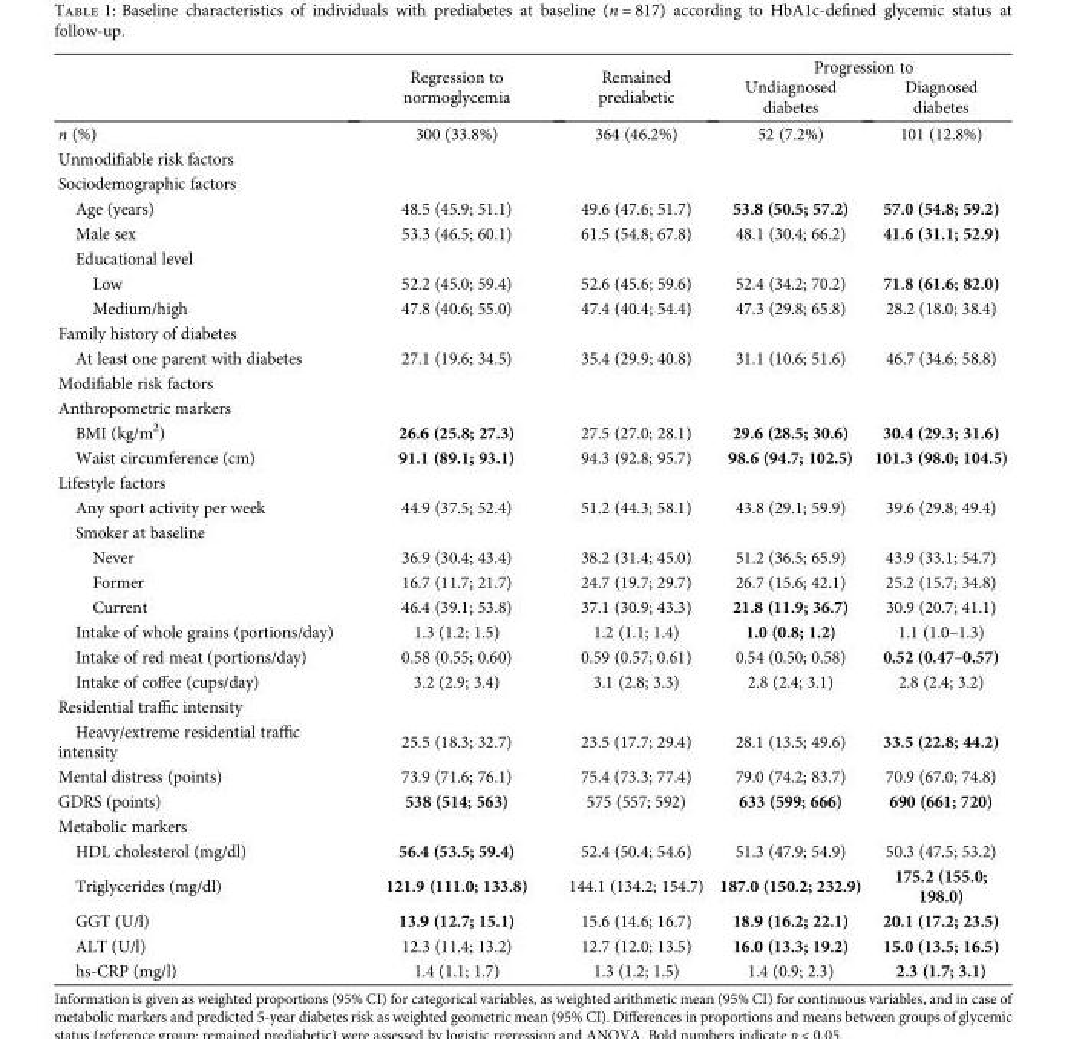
<table><thead><tr><td rowspan="2"></td><td rowspan="2">Regression to normoglycemia</td><td rowspan="2">Remained prediabetic</td><td colspan="2">Progression to</td></tr><tr><td>Undiagnosed diabetes</td><td>Diagnosed diabetes</td></tr></thead><tbody><tr><td>n (%)</td><td>300 (33.8%)</td><td>364 (46.2%)</td><td>52 (7.2%)</td><td>101 (12.8%)</td></tr><tr><td colspan="5">Unmodifiable risk factors</td></tr><tr><td colspan="5">Sociodemographic factors</td></tr><tr><td>Age (years)</td><td>48.5 (45.9; 51.1)</td><td>49.6 (47.6; 51.7)</td><td>53.8 (50.5; 57.2)</td><td>57.0 (54.8; 59.2)</td></tr><tr><td>Male sex</td><td>53.3 (46.5; 60.1)</td><td>61.5 (54.8; 67.8)</td><td>48.1 (30.4; 66.2)</td><td>41.6 (31.1; 52.9)</td></tr><tr><td colspan="5">Educational level</td></tr><tr><td>Low</td><td>52.2 (45.0; 59.4)</td><td>52.6 (45.6; 59.6)</td><td>52.4 (34.2; 70.2)</td><td>71.8 (61.6; 82.0)</td></tr><tr><td>Medium/high</td><td>47.8 (40.6; 55.0)</td><td>47.4 (40.4; 54.4)</td><td>47.3 (29.8; 65.8)</td><td>28.2 (18.0; 38.4)</td></tr><tr><td colspan="5">Family history of diabetes</td></tr><tr><td>At least one parent with diabetes</td><td>27.1 (19.6; 34.5)</td><td>35.4 (29.9; 40.8)</td><td>31.1 (10.6; 51.6)</td><td>46.7 (34.6; 58.8)</td></tr><tr><td colspan="5">Modifiable risk factors</td></tr><tr><td colspan="5">Anthropometric markers</td></tr><tr><td>BMI (kg/m<sup>2</sup>)</td><td>26.6 (25.8; 27.3)</td><td>27.5 (27.0; 28.1)</td><td>29.6 (28.5; 30.6)</td><td>30.4 (29.3; 31.6)</td></tr><tr><td>Waist circumference (cm)</td><td>91.1 (89.1; 93.1)</td><td>94.3 (92.8; 95.7)</td><td>98.6 (94.7; 102.5)</td><td>101.3 (98.0; 104.5)</td></tr><tr><td colspan="5">Lifestyle factors</td></tr><tr><td>Any sport activity per week</td><td>44.9 (37.5; 52.4)</td><td>51.2 (44.3; 58.1)</td><td>43.8 (29.1; 59.9)</td><td>39.6 (29.8; 49.4)</td></tr><tr><td colspan="5">Smoker at baseline</td></tr><tr><td>Never</td><td>36.9 (30.4; 43.4)</td><td>38.2 (31.4; 45.0)</td><td>51.2 (36.5; 65.9)</td><td>43.9 (33.1; 54.7)</td></tr><tr><td>Former</td><td>16.7 (11.7; 21.7)</td><td>24.7 (19.7; 29.7)</td><td>26.7 (15.6; 42.1)</td><td>25.2 (15.7; 34.8)</td></tr><tr><td>Current</td><td>46.4 (39.1; 53.8)</td><td>37.1 (30.9; 43.3)</td><td>21.8 (11.9; 36.7)</td><td>30.9 (20.7; 41.1)</td></tr><tr><td>Intake of whole grains (portions/day)</td><td>1.3 (1.2; 1.5)</td><td>1.2 (1.1; 1.4)</td><td>1.0 (0.8; 1.2)</td><td>1.1 (1.0–1.3)</td></tr><tr><td>Intake of red meat (portions/day)</td><td>0.58 (0.55; 0.60)</td><td>0.59 (0.57; 0.61)</td><td>0.54 (0.50; 0.58)</td><td>0.52 (0.47–0.57)</td></tr><tr><td>Intake of coffee (cups/day)</td><td>3.2 (2.9; 3.4)</td><td>3.1 (2.8; 3.3)</td><td>2.8 (2.4; 3.1)</td><td>2.8 (2.4; 3.2)</td></tr><tr><td colspan="5">Residential traffic intensity</td></tr><tr><td>Heavy/extreme residential traffic intensity</td><td>25.5 (18.3; 32.7)</td><td>23.5 (17.7; 29.4)</td><td>28.1 (13.5; 49.6)</td><td>33.5 (22.8; 44.2)</td></tr><tr><td>Mental distress (points)</td><td>73.9 (71.6; 76.1)</td><td>75.4 (73.3; 77.4)</td><td>79.0 (74.2; 83.7)</td><td>70.9 (67.0; 74.8)</td></tr><tr><td>GDRS (points)</td><td>538 (514; 563)</td><td>575 (557; 592)</td><td>633 (599; 666)</td><td>690 (661; 720)</td></tr><tr><td colspan="5">Metabolic markers</td></tr><tr><td>HDL cholesterol (mg/dl)</td><td>56.4 (53.5; 59.4)</td><td>52.4 (50.4; 54.6)</td><td>51.3 (47.9; 54.9)</td><td>50.3 (47.5; 53.2)</td></tr><tr><td>Triglycerides (mg/dl)</td><td>121.9 (111.0; 133.8)</td><td>144.1 (134.2; 154.7)</td><td>187.0 (150.2; 232.9)</td><td>175.2 (155.0; 198.0)</td></tr><tr><td>GGT (U/l)</td><td>13.9 (12.7; 15.1)</td><td>15.6 (14.6; 16.7)</td><td>18.9 (16.2; 22.1)</td><td>20.1 (17.2; 23.5)</td></tr><tr><td>ALT (U/l)</td><td>12.3 (11.4; 13.2)</td><td>12.7 (12.0; 13.5)</td><td>16.0 (13.3; 19.2)</td><td>15.0 (13.5; 16.5)</td></tr><tr><td>hs-CRP (mg/l)</td><td>1.4 (1.1; 1.7)</td><td>1.3 (1.2; 1.5)</td><td>1.4 (0.9; 2.3)</td><td>2.3 (1.7; 3.1)</td></tr></tbody></table>